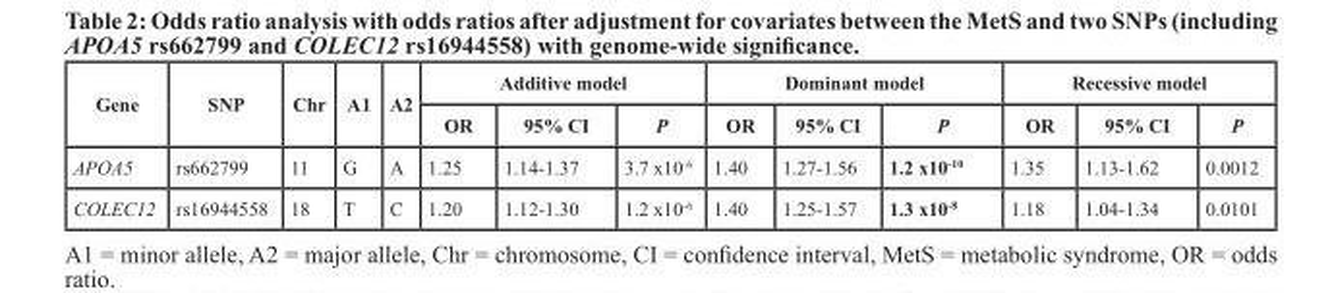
<table><thead><tr><td rowspan="2">Gene</td><td rowspan="2">SNP</td><td rowspan="2">Chr</td><td rowspan="2">A1</td><td rowspan="2">A2</td><td colspan="3">Additive model</td><td colspan="3">Dominant model</td><td colspan="3">Recessive model</td></tr><tr><td>OR</td><td>95% CI</td><td>P</td><td>OR</td><td>95% CI</td><td>P</td><td>OR</td><td>95% CI</td><td>P</td></tr></thead><tbody><tr><td>APOA5</td><td>rs662799</td><td>11</td><td>G</td><td>A</td><td>1.25</td><td>1.14-1.37</td><td>3.7 x10<sup>-6</sup></td><td>1.40</td><td>1.27-1.56</td><td>1.2 x10<sup>-10</sup></td><td>1.35</td><td>1.13-1.62</td><td>0.0012</td></tr><tr><td>COLEC12</td><td>rs16944558</td><td>18</td><td>T</td><td>C</td><td>1.20</td><td>1.12-1.30</td><td>1.2 x10<sup>-6</sup></td><td>1.40</td><td>1.25-1.57</td><td>1.3 x10<sup>-8</sup></td><td>1.18</td><td>1.04-1.34</td><td>0.0101</td></tr></tbody></table>